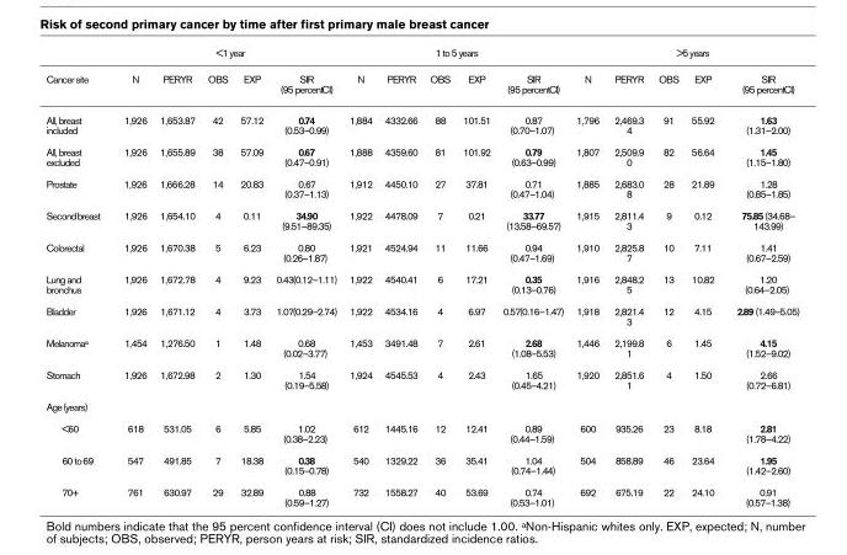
<table><thead><tr><td rowspan="2">Cancer site</td><td colspan="5">&lt;1 year</td><td colspan="5">1 to 5 years</td><td colspan="5">&gt;5 years</td></tr><tr><td>N</td><td>PERYR</td><td>OBS</td><td>EXP</td><td>SIR (95 percent CI)</td><td>N</td><td>PERYR</td><td>OBS</td><td>EXP</td><td>SIR (95 percent CI)</td><td>N</td><td>PERYR</td><td>OBS</td><td>EXP</td><td>SIR (95 percent CI)</td></tr></thead><tbody><tr><td>All, breast included</td><td>1,926</td><td>1,653.87</td><td>42</td><td>57.12</td><td>0.74 (0.53–0.99)</td><td>1,884</td><td>4332.66</td><td>88</td><td>101.51</td><td>0.87 (0.70–1.07)</td><td>1,796</td><td>2,469.3 4</td><td>91</td><td>55.92</td><td>1.63 (1.31–2.00)</td></tr><tr><td>All, breast excluded</td><td>1,926</td><td>1,655.89</td><td>38</td><td>57.09</td><td>0.67 (0.47–0.91)</td><td>1,888</td><td>4359.60</td><td>81</td><td>101.92</td><td>0.79 (0.63–0.99)</td><td>1,807</td><td>2,509.9 0</td><td>82</td><td>56.64</td><td>1.45 (1.15–1.80)</td></tr><tr><td>Prostate</td><td>1,926</td><td>1,666.28</td><td>14</td><td>20.83</td><td>0.67 (0.37–1.13)</td><td>1,912</td><td>4450.10</td><td>27</td><td>37.81</td><td>0.71 (0.47–1.04)</td><td>1,885</td><td>2,683.0 8</td><td>28</td><td>21.89</td><td>1.28 (0.85–1.85)</td></tr><tr><td>Second breast</td><td>1,926</td><td>1,654.10</td><td>4</td><td>0.11</td><td>34.90 (9.51–89.35)</td><td>1,922</td><td>4478.09</td><td>7</td><td>0.21</td><td>33.77 (13.58–69.57)</td><td>1,915</td><td>2,811.4 3</td><td>9</td><td>0.12</td><td>75.85 (34.68– 143.99)</td></tr><tr><td>Colorectal</td><td>1,926</td><td>1,670.38</td><td>5</td><td>6.23</td><td>0.80 (0.26–1.87)</td><td>1,921</td><td>4524.94</td><td>11</td><td>11.66</td><td>0.94 (0.47–1.69)</td><td>1,910</td><td>2,825.8 7</td><td>10</td><td>7.11</td><td>1.41 (0.67–2.59)</td></tr><tr><td>Lung and bronchus</td><td>1,926</td><td>1,672.78</td><td>4</td><td>9.23</td><td>0.43 (0.12–1.11)</td><td>1,922</td><td>4540.41</td><td>6</td><td>17.21</td><td>0.35 (0.13–0.76)</td><td>1,916</td><td>2,848.2 5</td><td>13</td><td>10.82</td><td>1.20 (0.64–2.05)</td></tr><tr><td>Bladder</td><td>1,926</td><td>1,671.12</td><td>4</td><td>3.73</td><td>1.07 (0.29–2.74)</td><td>1,922</td><td>4534.16</td><td>4</td><td>6.97</td><td>0.57 (0.16–1.47)</td><td>1,918</td><td>2,821.4 3</td><td>12</td><td>4.15</td><td>2.89 (1.49–5.05)</td></tr><tr><td>Melanomaa</td><td>1,454</td><td>1,276.50</td><td>1</td><td>1.48</td><td>0.68 (0.02–3.77)</td><td>1,453</td><td>3491.48</td><td>7</td><td>2.61</td><td>2.68 (1.08–5.53)</td><td>1,446</td><td>2,199.8 1</td><td>6</td><td>1.45</td><td>4.15 (1.52–9.02)</td></tr><tr><td>Stomach</td><td>1,926</td><td>1,672.98</td><td>2</td><td>1.30</td><td>1.54 (0.19–5.58)</td><td>1,924</td><td>4545.53</td><td>4</td><td>2.43</td><td>1.65 (0.45–4.21)</td><td>1,920</td><td>2,851.6 1</td><td>4</td><td>1.50</td><td>2.66 (0.72–6.81)</td></tr><tr><td colspan="16">Age (years)</td></tr><tr><td>&lt;60</td><td>618</td><td>531.05</td><td>6</td><td>5.85</td><td>1.02 (0.38–2.23)</td><td>612</td><td>1445.16</td><td>12</td><td>12.41</td><td>0.89 (0.44–1.59)</td><td>600</td><td>935.26</td><td>23</td><td>8.18</td><td>2.81 (1.78–4.22)</td></tr><tr><td>60 to 69</td><td>547</td><td>491.85</td><td>7</td><td>18.38</td><td>0.38 (0.15–0.78)</td><td>540</td><td>1329.22</td><td>36</td><td>35.41</td><td>1.04 (0.74–1.44)</td><td>504</td><td>858.89</td><td>46</td><td>23.64</td><td>1.95 (1.42–2.60)</td></tr><tr><td>70+</td><td>761</td><td>630.97</td><td>29</td><td>32.89</td><td>0.88 (0.59–1.27)</td><td>732</td><td>1558.27</td><td>40</td><td>53.69</td><td>0.74 (0.53–1.01)</td><td>692</td><td>675.19</td><td>22</td><td>24.10</td><td>0.91 (0.57–1.38)</td></tr></tbody></table>